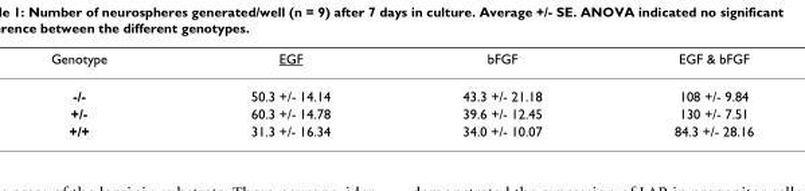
<table><thead><tr><td>Genotype</td><td>EGF</td><td>bFGF</td><td>EGF &amp; bFGF</td></tr></thead><tbody><tr><td>-/-</td><td>50.3 +/- 14.14</td><td>43.3 +/- 21.18</td><td>108 +/- 9.84</td></tr><tr><td>+/-</td><td>60.3 +/- 14.78</td><td>39.6 +/- 12.45</td><td>130 +/- 7.51</td></tr><tr><td>+/+</td><td>31.3 +/- 16.34</td><td>34.0 +/- 10.07</td><td>84.3 +/- 28.16</td></tr></tbody></table>